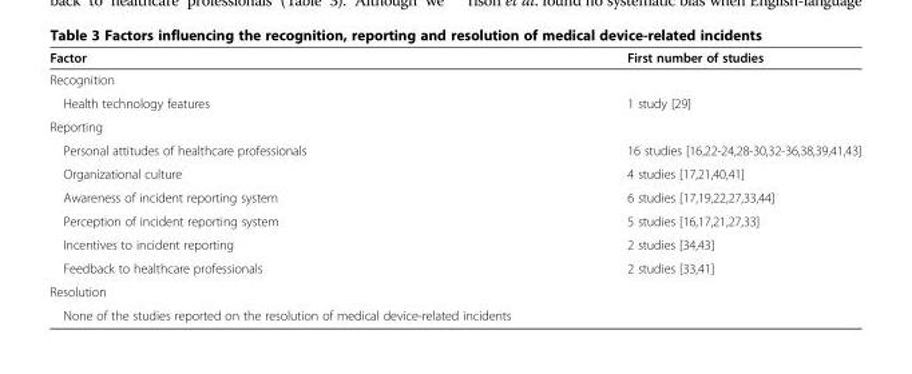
<table><thead><tr><td>Factor</td><td>First number of studies</td></tr></thead><tbody><tr><td colspan="2">Recognition</td></tr><tr><td>Health technology features</td><td>1 study [29]</td></tr><tr><td colspan="2">Reporting</td></tr><tr><td>Personal attitudes of healthcare professionals</td><td>16 studies [16,22-24,28-30,32-36,38,39,41,43]</td></tr><tr><td>Organizational culture</td><td>4 studies [17,21,40,41]</td></tr><tr><td>Awareness of incident reporting system</td><td>6 studies [17,19,22,27,33,44]</td></tr><tr><td>Perception of incident reporting system</td><td>5 studies [16,17,21,27,33]</td></tr><tr><td>Incentives to incident reporting</td><td>2 studies [34,43]</td></tr><tr><td>Feedback to healthcare professionals</td><td>2 studies [33,41]</td></tr><tr><td colspan="2">Resolution</td></tr><tr><td colspan="2">None of the studies reported on the resolution of medical device-related incidents</td></tr></tbody></table>